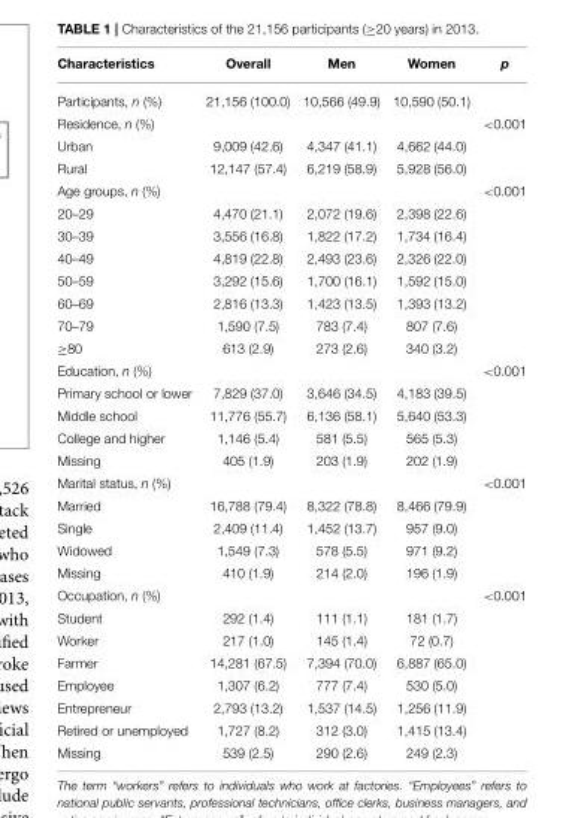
<table><thead><tr><td>Characteristics</td><td>Overall</td><td>Men</td><td>Women</td><td>p</td></tr></thead><tbody><tr><td>Participants, n (%)</td><td>21,156 (100.0)</td><td>10,566 (49.9)</td><td>10,590 (50.1)</td><td></td></tr><tr><td>Residence, n (%)</td><td></td><td></td><td></td><td>&lt;0.001</td></tr><tr><td>Urban</td><td>9,009 (42.6)</td><td>4,347 (41.1)</td><td>4,662 (44.0)</td><td></td></tr><tr><td>Rural</td><td>12,147 (57.4)</td><td>6,219 (58.9)</td><td>5,928 (56.0)</td><td></td></tr><tr><td>Age groups, n (%)</td><td></td><td></td><td></td><td>&lt;0.001</td></tr><tr><td>20–29</td><td>4,470 (21.1)</td><td>2,072 (19.6)</td><td>2,398 (22.6)</td><td></td></tr><tr><td>30–39</td><td>3,556 (16.8)</td><td>1,822 (17.2)</td><td>1,734 (16.4)</td><td></td></tr><tr><td>40–49</td><td>4,819 (22.8)</td><td>2,493 (23.6)</td><td>2,326 (22.0)</td><td></td></tr><tr><td>50–59</td><td>3,292 (15.6)</td><td>1,700 (16.1)</td><td>1,592 (15.0)</td><td></td></tr><tr><td>60–69</td><td>2,816 (13.3)</td><td>1,423 (13.5)</td><td>1,393 (13.2)</td><td></td></tr><tr><td>70–79</td><td>1,590 (7.5)</td><td>783 (7.4)</td><td>807 (7.6)</td><td></td></tr><tr><td>≥80</td><td>613 (2.9)</td><td>273 (2.6)</td><td>340 (3.2)</td><td></td></tr><tr><td>Education, n (%)</td><td></td><td></td><td></td><td>&lt;0.001</td></tr><tr><td>Primary school or lower</td><td>7,829 (37.0)</td><td>3,646 (34.5)</td><td>4,183 (39.5)</td><td></td></tr><tr><td>Middle school</td><td>11,776 (55.7)</td><td>6,136 (58.1)</td><td>5,640 (53.3)</td><td></td></tr><tr><td>College and higher</td><td>1,146 (5.4)</td><td>581 (5.5)</td><td>565 (5.3)</td><td></td></tr><tr><td>Missing</td><td>405 (1.9)</td><td>203 (1.9)</td><td>202 (1.9)</td><td></td></tr><tr><td>Marital status, n (%)</td><td></td><td></td><td></td><td>&lt;0.001</td></tr><tr><td>Married</td><td>16,788 (79.4)</td><td>8,322 (78.8)</td><td>8,466 (79.9)</td><td></td></tr><tr><td>Single</td><td>2,409 (11.4)</td><td>1,452 (13.7)</td><td>957 (9.0)</td><td></td></tr><tr><td>Widowed</td><td>1,549 (7.3)</td><td>578 (5.5)</td><td>971 (9.2)</td><td></td></tr><tr><td>Missing</td><td>410 (1.9)</td><td>214 (2.0)</td><td>196 (1.9)</td><td></td></tr><tr><td>Occupation, n (%)</td><td></td><td></td><td></td><td>&lt;0.001</td></tr><tr><td>Student</td><td>292 (1.4)</td><td>111 (1.1)</td><td>181 (1.7)</td><td></td></tr><tr><td>Worker</td><td>217 (1.0)</td><td>145 (1.4)</td><td>72 (0.7)</td><td></td></tr><tr><td>Farmer</td><td>14,281 (67.5)</td><td>7,394 (70.0)</td><td>6,887 (65.0)</td><td></td></tr><tr><td>Employee</td><td>1,307 (6.2)</td><td>777 (7.4)</td><td>530 (5.0)</td><td></td></tr><tr><td>Entrepreneur</td><td>2,793 (13.2)</td><td>1,537 (14.5)</td><td>1,256 (11.9)</td><td></td></tr><tr><td>Retired or unemployed</td><td>1,727 (8.2)</td><td>312 (3.0)</td><td>1,415 (13.4)</td><td></td></tr><tr><td>Missing</td><td>539 (2.5)</td><td>290 (2.6)</td><td>249 (2.3)</td><td></td></tr></tbody></table>